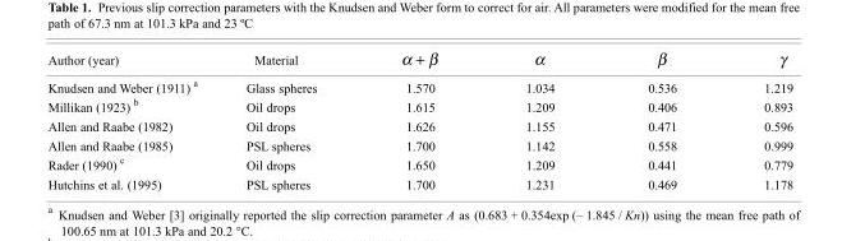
<table><thead><tr><td>Author (year)</td><td>Material</td><td>α + β</td><td>α</td><td>β</td><td>γ</td></tr></thead><tbody><tr><td>Knudsen and Weber (1911) a</td><td>Glass spheres</td><td>1.570</td><td>1.034</td><td>0.536</td><td>1.219</td></tr><tr><td>Millikan (1923) b</td><td>Oil drops</td><td>1.615</td><td>1.209</td><td>0.406</td><td>0.893</td></tr><tr><td>Allen and Raabe (1982)</td><td>Oil drops</td><td>1.626</td><td>1.155</td><td>0.471</td><td>0.596</td></tr><tr><td>Allen and Raabe (1985)</td><td>PSL spheres</td><td>1.700</td><td>1.142</td><td>0.558</td><td>0.999</td></tr><tr><td>Rader (1990) c</td><td>Oil drops</td><td>1.650</td><td>1.209</td><td>0.441</td><td>0.779</td></tr><tr><td>Hutchins et al. (1995)</td><td>PSL spheres</td><td>1.700</td><td>1.231</td><td>0.469</td><td>1.178</td></tr></tbody></table>